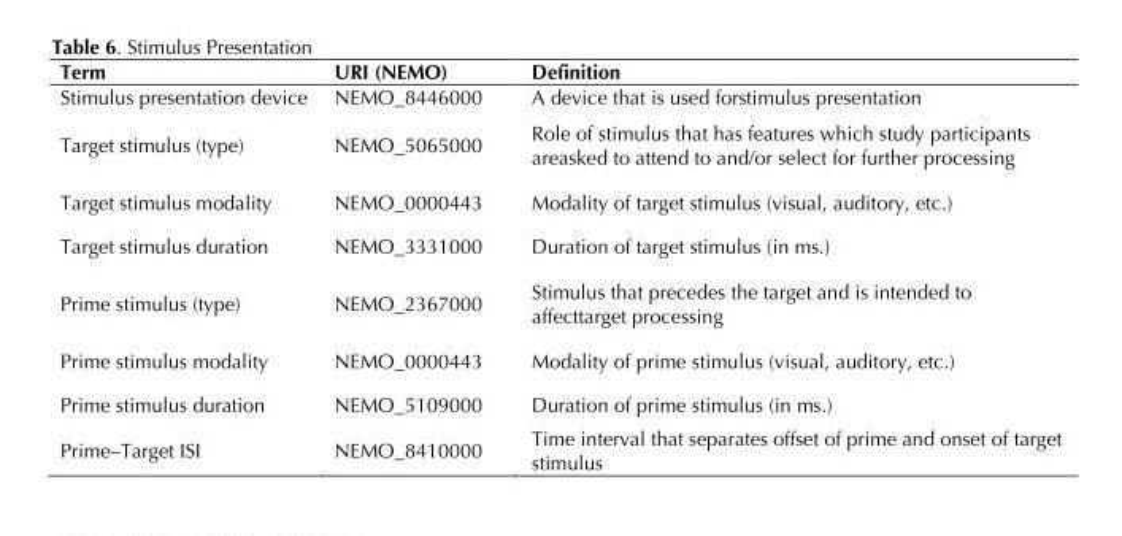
<table><thead><tr><td>Term</td><td>URI (NEMO)</td><td>Definition</td></tr></thead><tbody><tr><td>Stimulus presentation device</td><td>NEMO_8446000</td><td>A device that is used forstimulus presentation</td></tr><tr><td>Target stimulus (type)</td><td>NEMO_5065000</td><td>Role of stimulus that has features which study participants areasked to attend to and/or select for further processing</td></tr><tr><td>Target stimulus modality</td><td>NEMO_0000443</td><td>Modality of target stimulus (visual, auditory, etc.)</td></tr><tr><td>Target stimulus duration</td><td>NEMO_3331000</td><td>Duration of target stimulus (in ms.)</td></tr><tr><td>Prime stimulus (type)</td><td>NEMO_2367000</td><td>Stimulus that precedes the target and is intended to affecttarget processing</td></tr><tr><td>Prime stimulus modality</td><td>NEMO_0000443</td><td>Modality of prime stimulus (visual, auditory, etc.)</td></tr><tr><td>Prime stimulus duration</td><td>NEMO_5109000</td><td>Duration of prime stimulus (in ms.)</td></tr><tr><td>Prime–Target ISI</td><td>NEMO_8410000</td><td>Time interval that separates offset of prime and onset of target stimulus</td></tr></tbody></table>